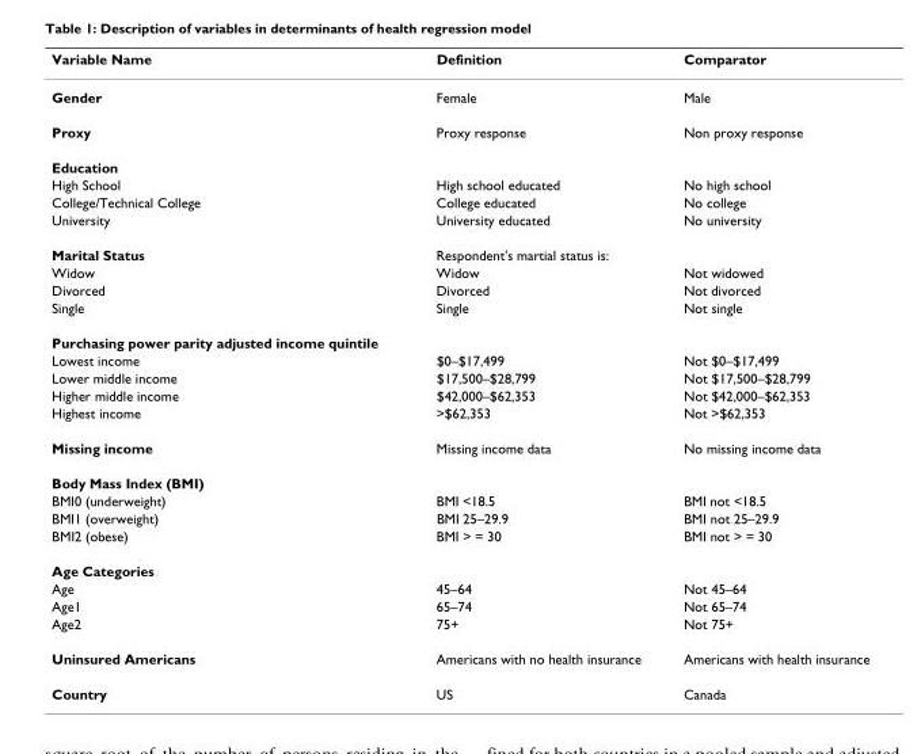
<table><thead><tr><td>Variable Name</td><td>Definition</td><td>Comparator</td></tr></thead><tbody><tr><td>Gender</td><td>Female</td><td>Male</td></tr><tr><td>Proxy</td><td>Proxy response</td><td>Non proxy response</td></tr><tr><td colspan="3">Education</td></tr><tr><td>High School</td><td>High school educated</td><td>No high school</td></tr><tr><td>College/Technical College</td><td>College educated</td><td>No college</td></tr><tr><td>University</td><td>University educated</td><td>No university</td></tr><tr><td>Marital Status</td><td>Respondent&#x27;s martial status is:</td><td></td></tr><tr><td>Widow</td><td>Widow</td><td>Not widowed</td></tr><tr><td>Divorced</td><td>Divorced</td><td>Not divorced</td></tr><tr><td>Single</td><td>Single</td><td>Not single</td></tr><tr><td colspan="3">Purchasing power parity adjusted income quintile</td></tr><tr><td>Lowest income</td><td>$0–$17,499</td><td>Not $0–$17,499</td></tr><tr><td>Lower middle income</td><td>$17,500–$28,799</td><td>Not $17,500–$28,799</td></tr><tr><td>Higher middle income</td><td>$42,000–$62,353</td><td>Not $42,000–$62,353</td></tr><tr><td>Highest income</td><td>&gt;$62,353</td><td>Not &gt;$62,353</td></tr><tr><td>Missing income</td><td>Missing income data</td><td>No missing income data</td></tr><tr><td colspan="3">Body Mass Index (BMI)</td></tr><tr><td>BMI0 (underweight)</td><td>BMI &lt;18.5</td><td>BMI not &lt;18.5</td></tr><tr><td>BMI1 (overweight)</td><td>BMI 25–29.9</td><td>BMI not 25–29.9</td></tr><tr><td>BMI2 (obese)</td><td>BMI &gt; = 30</td><td>BMI not &gt; = 30</td></tr><tr><td colspan="3">Age Categories</td></tr><tr><td>Age</td><td>45–64</td><td>Not 45–64</td></tr><tr><td>Age1</td><td>65–74</td><td>Not 65–74</td></tr><tr><td>Age2</td><td>75+</td><td>Not 75+</td></tr><tr><td>Uninsured Americans</td><td>Americans with no health insurance</td><td>Americans with health insurance</td></tr><tr><td>Country</td><td>US</td><td>Canada</td></tr></tbody></table>